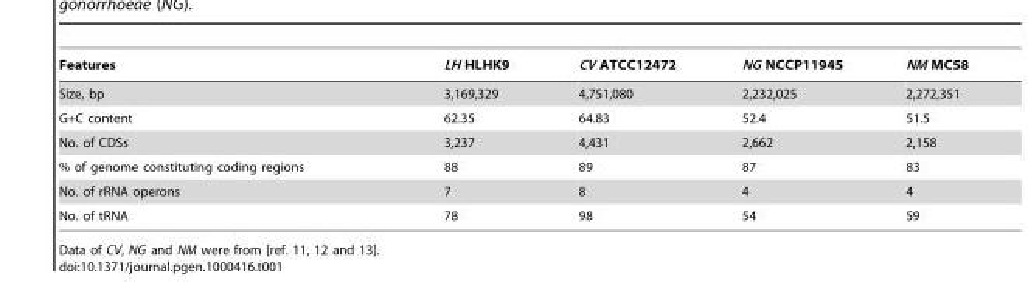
<table><thead><tr><td>Features</td><td>LH HLHK9</td><td>CV ATCC12472</td><td>NG NCCP11945</td><td>NM MC58</td></tr></thead><tbody><tr><td>Size, bp</td><td>3,169,329</td><td>4,751,080</td><td>2,232,025</td><td>2,272,351</td></tr><tr><td>G+C content</td><td>62.35</td><td>64.83</td><td>52.4</td><td>51.5</td></tr><tr><td>No. of CDSs</td><td>3,237</td><td>4,431</td><td>2,662</td><td>2,158</td></tr><tr><td>% of genome constituting coding regions</td><td>88</td><td>89</td><td>87</td><td>83</td></tr><tr><td>No. of rRNA operons</td><td>7</td><td>8</td><td>4</td><td>4</td></tr><tr><td>No. of tRNA</td><td>78</td><td>98</td><td>54</td><td>59</td></tr></tbody></table>